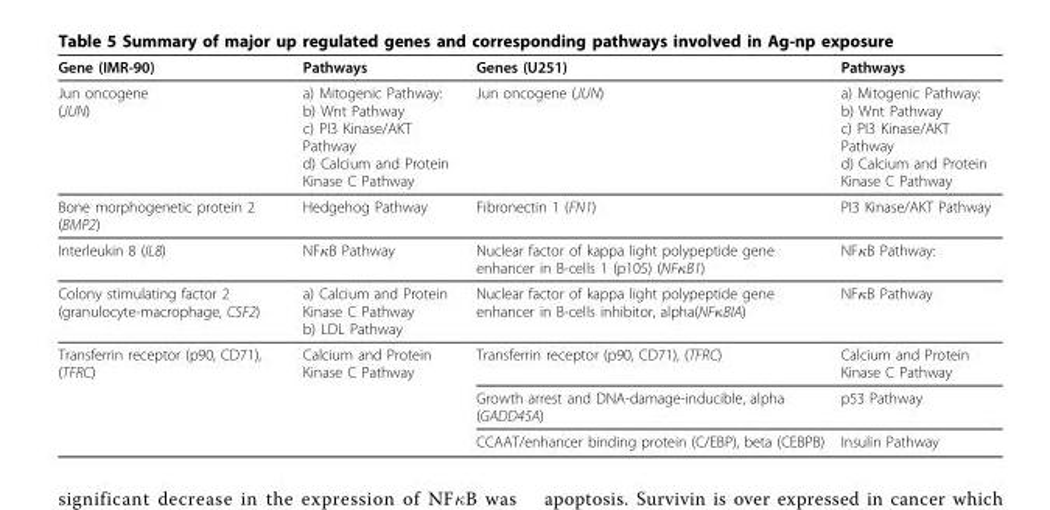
<table><thead><tr><td>Gene (IMR-90)</td><td>Pathways</td><td>Genes (U251)</td><td>Pathways</td></tr></thead><tbody><tr><td>Jun oncogene (JUN)</td><td>a) Mitogenic Pathway: b) Wnt Pathway c) PI3 Kinase/AKT Pathway d) Calcium and Protein Kinase C Pathway</td><td>Jun oncogene (JUN)</td><td>a) Mitogenic Pathway: b) Wnt Pathway c) PI3 Kinase/AKT Pathway d) Calcium and Protein Kinase C Pathway</td></tr><tr><td>Bone morphogenetic protein 2 (BMP2)</td><td>Hedgehog Pathway</td><td>Fibronectin 1 (FN1)</td><td>PI3 Kinase/AKT Pathway</td></tr><tr><td>Interleukin 8 (IL8)</td><td>NFκB Pathway</td><td>Nuclear factor of kappa light polypeptide gene enhancer in B-cells 1 (p105) (NFκB1)</td><td>NFκB Pathway:</td></tr><tr><td>Colony stimulating factor 2 (granulocyte-macrophage, CSF2)</td><td>a) Calcium and Protein Kinase C Pathway b) LDL Pathway</td><td>Nuclear factor of kappa light polypeptide gene enhancer in B-cells inhibitor, alpha(NFκBIA)</td><td>NFκB Pathway</td></tr><tr><td rowspan="3">Transferrin receptor (p90, CD71), (TFRC)</td><td>Calcium and Protein Kinase C Pathway</td><td>Transferrin receptor (p90, CD71), (TFRC)</td><td>Calcium and Protein Kinase C Pathway</td></tr><tr><td></td><td>Growth arrest and DNA-damage-inducible, alpha (GADD45A)</td><td>p53 Pathway</td></tr><tr><td></td><td>CCAAT/enhancer binding protein (C/EBP), beta (CEBPB)</td><td>Insulin Pathway</td></tr></tbody></table>